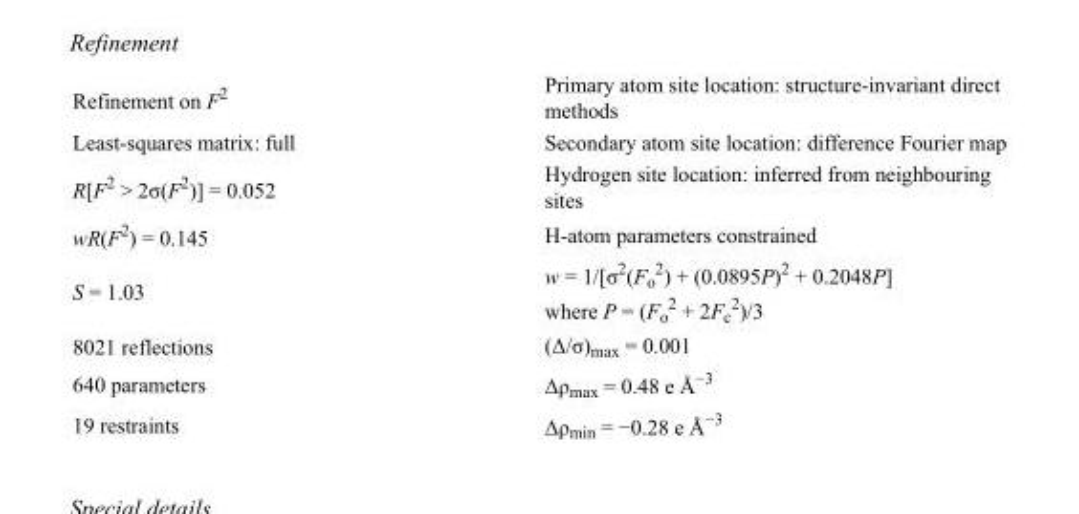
<table><tbody><tr><td>Refinement on F<sup>2</sup></td><td>Primary atom site location: structure-invariant direct methods</td></tr><tr><td>Least-squares matrix: full</td><td>Secondary atom site location: difference Fourier map</td></tr><tr><td>R[F<sup>2</sup> &gt; 2σ(F<sup>2</sup>)] = 0.052</td><td>Hydrogen site location: inferred from neighbouring sites</td></tr><tr><td>wR(F<sup>2</sup>) = 0.145</td><td>H-atom parameters constrained</td></tr><tr><td>S = 1.03</td><td>w = 1/[σ<sup>2</sup>(F<sub>o</sub> <sup>2</sup>) + (0.0895P)<sup>2</sup> + 0.2048P] where P = (F<sub>o</sub> <sup>2</sup> + 2F<sub>c</sub> <sup>2</sup>)/3</td></tr><tr><td>8021 reflections</td><td>(Δ/σ)<sub>max</sub> = 0.001</td></tr><tr><td>640 parameters</td><td>Δρ<sub>max</sub> = 0.48 e Å<sup>−3</sup></td></tr><tr><td>19 restraints</td><td>Δρ<sub>min</sub> = −0.28 e Å<sup>−3</sup></td></tr></tbody></table>